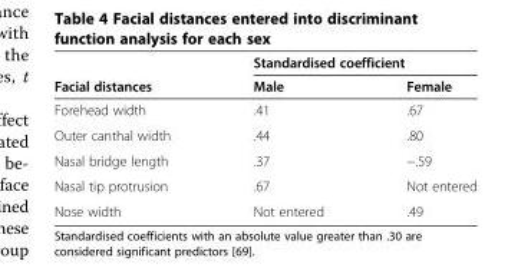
<table><thead><tr><td rowspan="2">Facial distances</td><td colspan="2">Standardised coefficient</td></tr><tr><td>Male</td><td>Female</td></tr></thead><tbody><tr><td>Forehead width</td><td>.41</td><td>.67</td></tr><tr><td>Outer canthal width</td><td>.44</td><td>.80</td></tr><tr><td>Nasal bridge length</td><td>.37</td><td>−.59</td></tr><tr><td>Nasal tip protrusion</td><td>.67</td><td>Not entered</td></tr><tr><td>Nose width</td><td>Not entered</td><td>.49</td></tr></tbody></table>